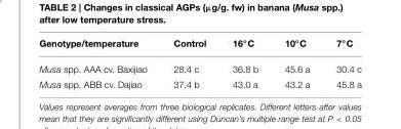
<table><thead><tr><td>Genotype/temperature</td><td>Control</td><td>16◦C</td><td>10◦C</td><td>7◦C</td></tr></thead><tbody><tr><td>Musa spp. AAA cv. Baxijiao</td><td>28.4 c</td><td>36.8 b</td><td>45.6 a</td><td>30.4 c</td></tr><tr><td>Musa spp. ABB cv. Dajiao</td><td>37.4 b</td><td>43.0 a</td><td>43.2 a</td><td>45.8 a</td></tr></tbody></table>